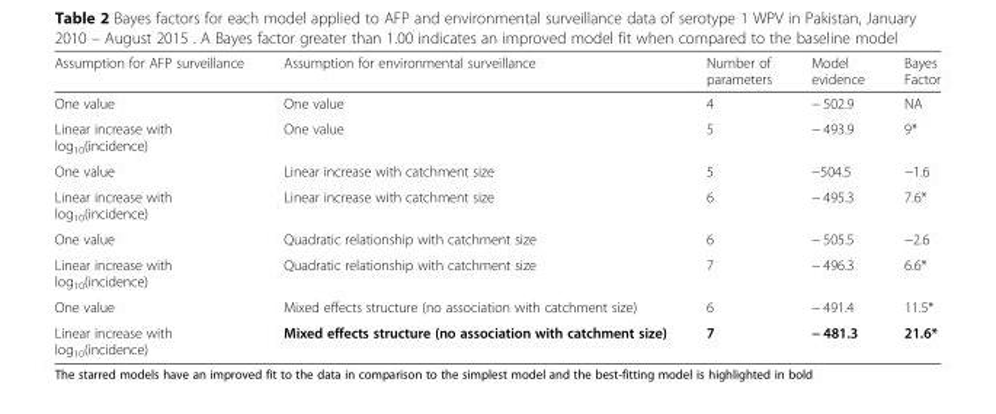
<table><thead><tr><td>Assumption for AFP surveillance</td><td>Assumption for environmental surveillance</td><td>Number of parameters</td><td>Model evidence</td><td>Bayes Factor</td></tr></thead><tbody><tr><td>One value</td><td>One value</td><td>4</td><td>− 502.9</td><td>NA</td></tr><tr><td>Linear increase with log<sub>10</sub>(incidence)</td><td>One value</td><td>5</td><td>− 493.9</td><td>9*</td></tr><tr><td>One value</td><td>Linear increase with catchment size</td><td>5</td><td>−504.5</td><td>−1.6</td></tr><tr><td>Linear increase with log<sub>10</sub>(incidence)</td><td>Linear increase with catchment size</td><td>6</td><td>− 495.3</td><td>7.6*</td></tr><tr><td>One value</td><td>Quadratic relationship with catchment size</td><td>6</td><td>− 505.5</td><td>−2.6</td></tr><tr><td>Linear increase with log<sub>10</sub>(incidence)</td><td>Quadratic relationship with catchment size</td><td>7</td><td>− 496.3</td><td>6.6*</td></tr><tr><td>One value</td><td>Mixed effects structure (no association with catchment size)</td><td>6</td><td>− 491.4</td><td>11.5*</td></tr><tr><td>Linear increase with log<sub>10</sub>(incidence)</td><td>Mixed effects structure (no association with catchment size)</td><td>7</td><td>− 481.3</td><td>21.6*</td></tr></tbody></table>